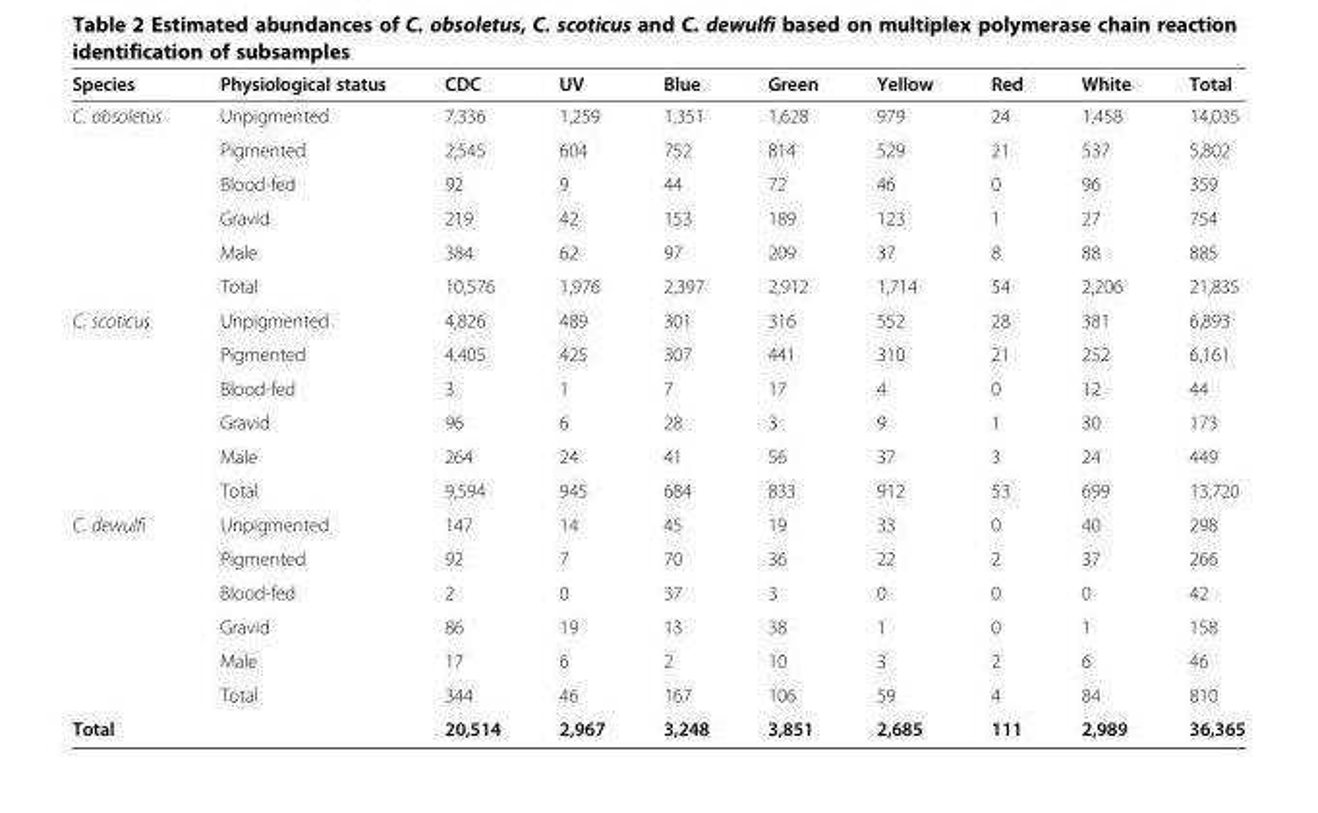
<table><thead><tr><td>Species</td><td>Physiological status</td><td>CDC</td><td>UV</td><td>Blue</td><td>Green</td><td>Yellow</td><td>Red</td><td>White</td><td>Total</td></tr></thead><tbody><tr><td rowspan="6">C. obsoletus</td><td>Unpigmented</td><td>7,336</td><td>1,259</td><td>1,351</td><td>1,628</td><td>979</td><td>24</td><td>1,458</td><td>14,035</td></tr><tr><td>Pigmented</td><td>2,545</td><td>604</td><td>752</td><td>814</td><td>529</td><td>21</td><td>537</td><td>5,802</td></tr><tr><td>Blood-fed</td><td>92</td><td>9</td><td>44</td><td>72</td><td>46</td><td>0</td><td>96</td><td>359</td></tr><tr><td>Gravid</td><td>219</td><td>42</td><td>153</td><td>189</td><td>123</td><td>1</td><td>27</td><td>754</td></tr><tr><td>Male</td><td>384</td><td>62</td><td>97</td><td>209</td><td>37</td><td>8</td><td>88</td><td>885</td></tr><tr><td>Total</td><td>10,576</td><td>1,976</td><td>2,397</td><td>2,912</td><td>1,714</td><td>54</td><td>2,206</td><td>21,835</td></tr><tr><td rowspan="6">C. scoticus</td><td>Unpigmented</td><td>4,826</td><td>489</td><td>301</td><td>316</td><td>552</td><td>28</td><td>381</td><td>6,893</td></tr><tr><td>Pigmented</td><td>4,405</td><td>425</td><td>307</td><td>441</td><td>310</td><td>21</td><td>252</td><td>6,161</td></tr><tr><td>Blood-fed</td><td>3</td><td>1</td><td>7</td><td>17</td><td>4</td><td>0</td><td>12</td><td>44</td></tr><tr><td>Gravid</td><td>96</td><td>6</td><td>28</td><td>3</td><td>9</td><td>1</td><td>30</td><td>173</td></tr><tr><td>Male</td><td>264</td><td>24</td><td>41</td><td>56</td><td>37</td><td>3</td><td>24</td><td>449</td></tr><tr><td>Total</td><td>9,594</td><td>945</td><td>684</td><td>833</td><td>912</td><td>53</td><td>699</td><td>13,720</td></tr><tr><td rowspan="6">C. dewulfi</td><td>Unpigmented</td><td>147</td><td>14</td><td>45</td><td>19</td><td>33</td><td>0</td><td>40</td><td>298</td></tr><tr><td>Pigmented</td><td>92</td><td>7</td><td>70</td><td>36</td><td>22</td><td>2</td><td>37</td><td>266</td></tr><tr><td>Blood-fed</td><td>2</td><td>0</td><td>37</td><td>3</td><td>0</td><td>0</td><td>0</td><td>42</td></tr><tr><td>Gravid</td><td>86</td><td>19</td><td>13</td><td>38</td><td>1</td><td>0</td><td>1</td><td>158</td></tr><tr><td>Male</td><td>17</td><td>6</td><td>2</td><td>10</td><td>3</td><td>2</td><td>6</td><td>46</td></tr><tr><td>Total</td><td>344</td><td>46</td><td>167</td><td>106</td><td>59</td><td>4</td><td>84</td><td>810</td></tr><tr><td colspan="2">Total</td><td>20,514</td><td>2,967</td><td>3,248</td><td>3,851</td><td>2,685</td><td>111</td><td>2,989</td><td>36,365</td></tr></tbody></table>